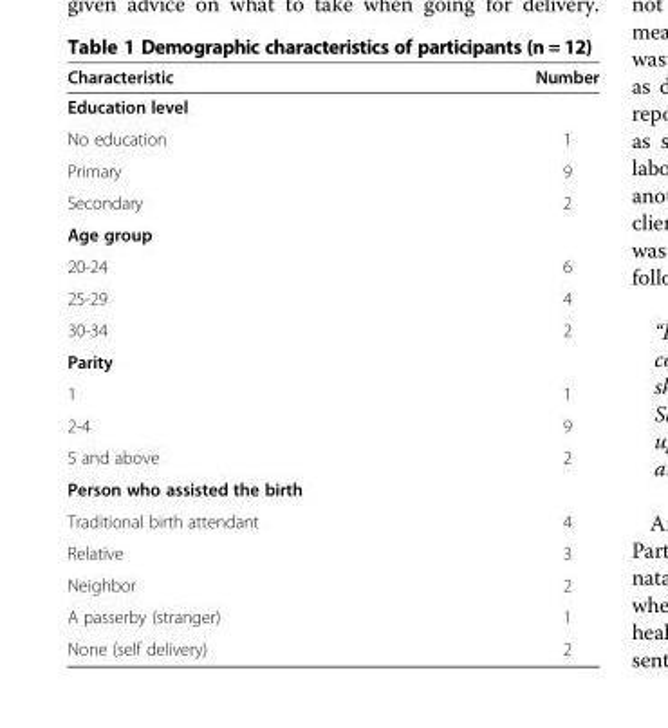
<table><thead><tr><td>Characteristic</td><td>Number</td></tr></thead><tbody><tr><td colspan="2">Education level</td></tr><tr><td>No education</td><td>1</td></tr><tr><td>Primary</td><td>9</td></tr><tr><td>Secondary</td><td>2</td></tr><tr><td colspan="2">Age group</td></tr><tr><td>20-24</td><td>6</td></tr><tr><td>25-29</td><td>4</td></tr><tr><td>30-34</td><td>2</td></tr><tr><td colspan="2">Parity</td></tr><tr><td>1</td><td>1</td></tr><tr><td>2-4</td><td>9</td></tr><tr><td>5 and above</td><td>2</td></tr><tr><td colspan="2">Person who assisted the birth</td></tr><tr><td>Traditional birth attendant</td><td>4</td></tr><tr><td>Relative</td><td>3</td></tr><tr><td>Neighbor</td><td>2</td></tr><tr><td>A passerby (stranger)</td><td>1</td></tr><tr><td>None (self delivery)</td><td>2</td></tr></tbody></table>